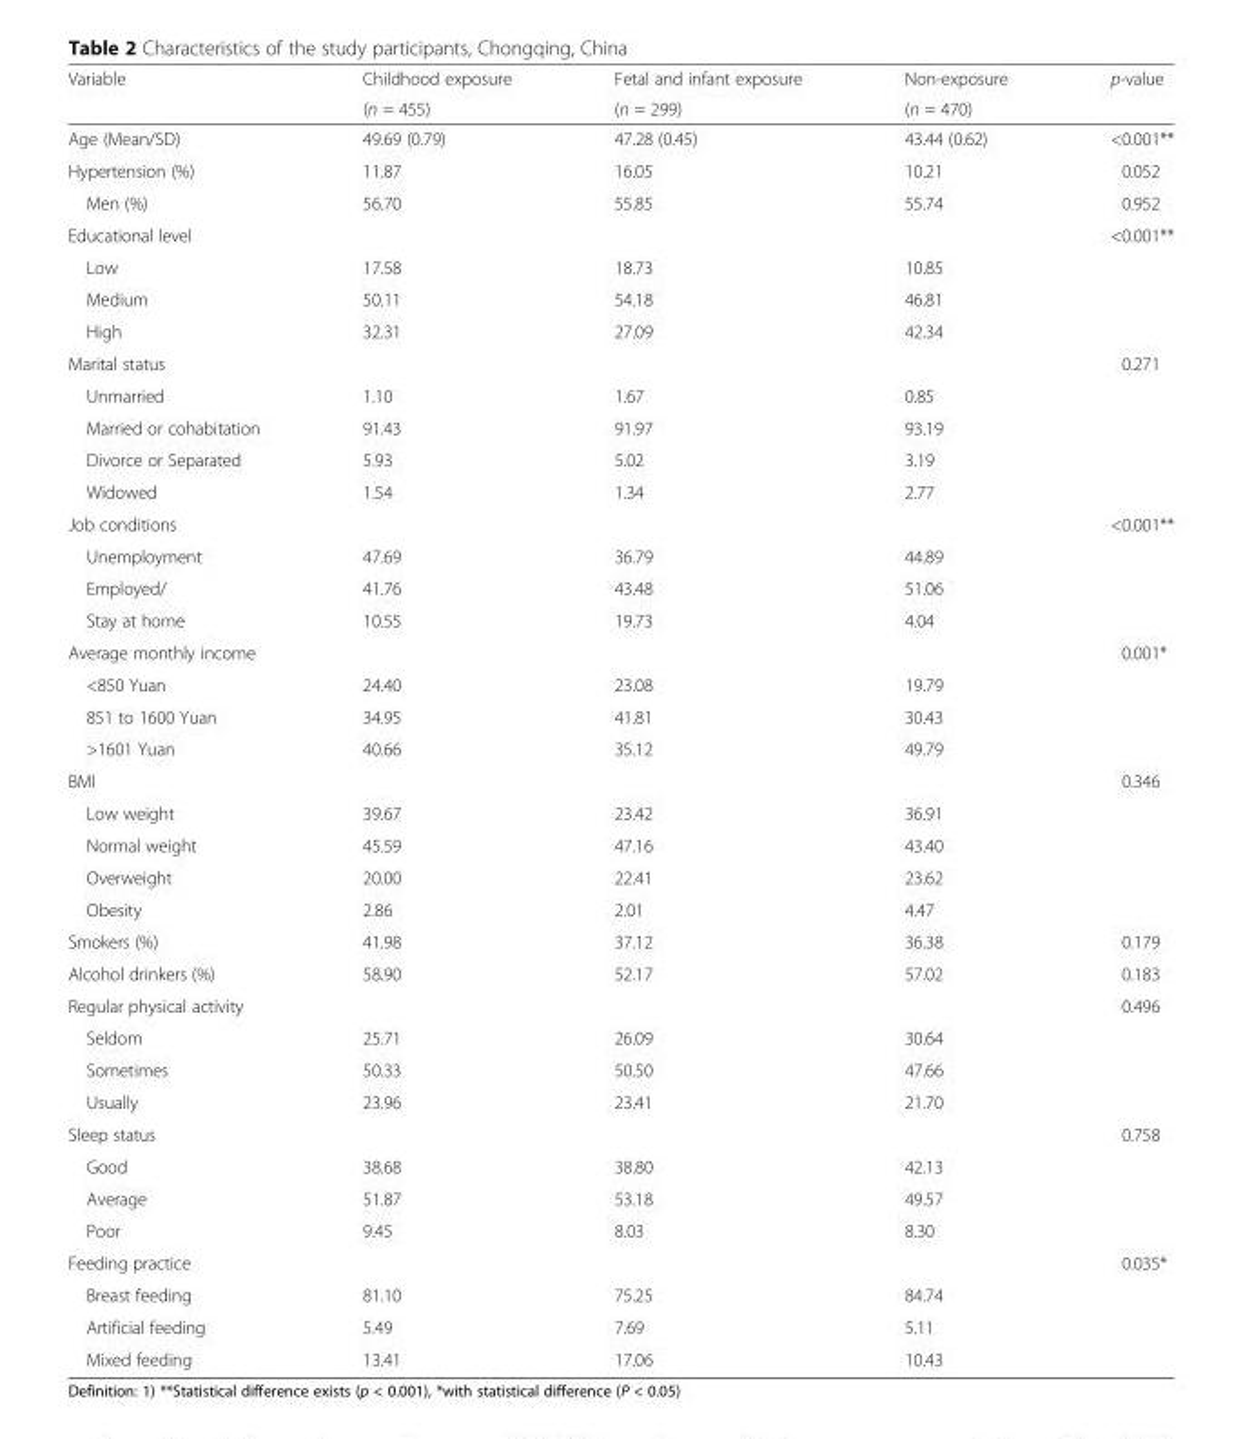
<table><thead><tr><td rowspan="2">Variable</td><td rowspan="2">Childhood exposure (n = 455)</td><td rowspan="2">Fetal and infant exposure (n = 299)</td><td rowspan="2">Non-exposure (n = 470)</td><td rowspan="2">p-value</td></tr><tr></tr></thead><tbody><tr><td>Age (Mean/SD)</td><td>49.69 (0.79)</td><td>47.28 (0.45)</td><td>43.44 (0.62)</td><td>&lt;0.001**</td></tr><tr><td>Hypertension (%)</td><td>11.87</td><td>16.05</td><td>10.21</td><td>0.052</td></tr><tr><td>Men (%)</td><td>56.70</td><td>55.85</td><td>55.74</td><td>0.952</td></tr><tr><td>Educational level</td><td></td><td></td><td></td><td>&lt;0.001**</td></tr><tr><td>Low</td><td>17.58</td><td>18.73</td><td>10.85</td><td></td></tr><tr><td>Medium</td><td>50.11</td><td>54.18</td><td>46.81</td><td></td></tr><tr><td>High</td><td>32.31</td><td>27.09</td><td>42.34</td><td></td></tr><tr><td>Marital status</td><td></td><td></td><td></td><td>0.271</td></tr><tr><td>Unmarried</td><td>1.10</td><td>1.67</td><td>0.85</td><td></td></tr><tr><td>Married or cohabitation</td><td>91.43</td><td>91.97</td><td>93.19</td><td></td></tr><tr><td>Divorce or Separated</td><td>5.93</td><td>5.02</td><td>3.19</td><td></td></tr><tr><td>Widowed</td><td>1.54</td><td>1.34</td><td>2.77</td><td></td></tr><tr><td>Job conditions</td><td></td><td></td><td></td><td>&lt;0.001**</td></tr><tr><td>Unemployment</td><td>47.69</td><td>36.79</td><td>44.89</td><td></td></tr><tr><td>Employed/</td><td>41.76</td><td>43.48</td><td>51.06</td><td></td></tr><tr><td>Stay at home</td><td>10.55</td><td>19.73</td><td>4.04</td><td></td></tr><tr><td>Average monthly income</td><td></td><td></td><td></td><td>0.001*</td></tr><tr><td>&lt;850 Yuan</td><td>24.40</td><td>23.08</td><td>19.79</td><td></td></tr><tr><td>851 to 1600 Yuan</td><td>34.95</td><td>41.81</td><td>30.43</td><td></td></tr><tr><td>&gt;1601 Yuan</td><td>40.66</td><td>35.12</td><td>49.79</td><td></td></tr><tr><td>BMI</td><td></td><td></td><td></td><td>0.346</td></tr><tr><td>Low weight</td><td>39.67</td><td>23.42</td><td>36.91</td><td></td></tr><tr><td>Normal weight</td><td>45.59</td><td>47.16</td><td>43.40</td><td></td></tr><tr><td>Overweight</td><td>20.00</td><td>22.41</td><td>23.62</td><td></td></tr><tr><td>Obesity</td><td>2.86</td><td>2.01</td><td>4.47</td><td></td></tr><tr><td>Smokers (%)</td><td>41.98</td><td>37.12</td><td>36.38</td><td>0.179</td></tr><tr><td>Alcohol drinkers (%)</td><td>58.90</td><td>52.17</td><td>57.02</td><td>0.183</td></tr><tr><td>Regular physical activity</td><td></td><td></td><td></td><td>0.496</td></tr><tr><td>Seldom</td><td>25.71</td><td>26.09</td><td>30.64</td><td></td></tr><tr><td>Sometimes</td><td>50.33</td><td>50.50</td><td>47.66</td><td></td></tr><tr><td>Usually</td><td>23.96</td><td>23.41</td><td>21.70</td><td></td></tr><tr><td>Sleep status</td><td></td><td></td><td></td><td>0.758</td></tr><tr><td>Good</td><td>38.68</td><td>38.80</td><td>42.13</td><td></td></tr><tr><td>Average</td><td>51.87</td><td>53.18</td><td>49.57</td><td></td></tr><tr><td>Poor</td><td>9.45</td><td>8.03</td><td>8.30</td><td></td></tr><tr><td>Feeding practice</td><td></td><td></td><td></td><td>0.035*</td></tr><tr><td>Breast feeding</td><td>81.10</td><td>75.25</td><td>84.74</td><td></td></tr><tr><td>Artificial feeding</td><td>5.49</td><td>7.69</td><td>5.11</td><td></td></tr><tr><td>Mixed feeding</td><td>13.41</td><td>17.06</td><td>10.43</td><td></td></tr></tbody></table>